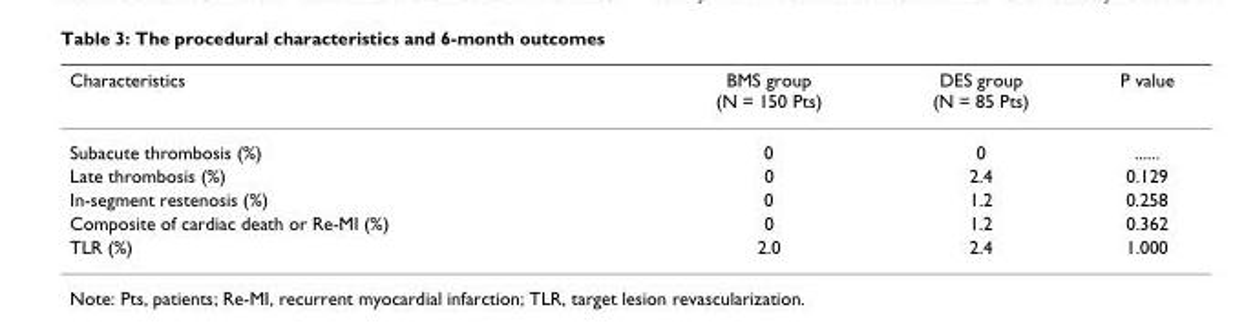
<table><thead><tr><td>Characteristics</td><td>BMS group (N = 150 Pts)</td><td>DES group (N = 85 Pts)</td><td>P value</td></tr></thead><tbody><tr><td>Subacute thrombosis (%)</td><td>0</td><td>0</td><td>......</td></tr><tr><td>Late thrombosis (%)</td><td>0</td><td>2.4</td><td>0.129</td></tr><tr><td>In-segment restenosis (%)</td><td>0</td><td>1.2</td><td>0.258</td></tr><tr><td>Composite of cardiac death or Re-MI (%)</td><td>0</td><td>1.2</td><td>0.362</td></tr><tr><td>TLR (%)</td><td>2.0</td><td>2.4</td><td>1.000</td></tr></tbody></table>